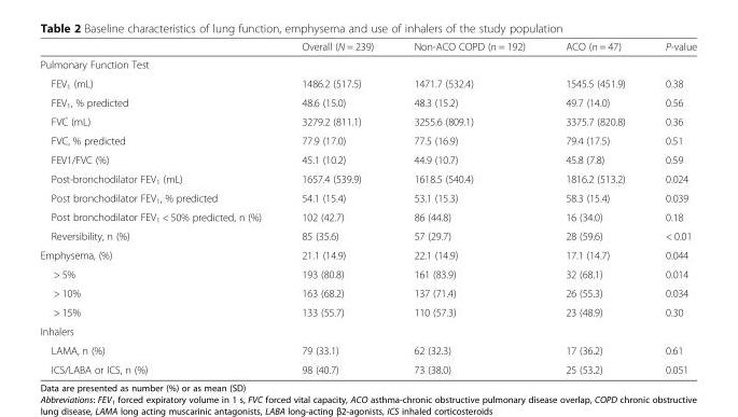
<table><thead><tr><td></td><td>Overall (N = 239)</td><td>Non-ACO COPD (n = 192)</td><td>ACO (n = 47)</td><td>P-value</td></tr></thead><tbody><tr><td colspan="5">Pulmonary Function Test</td></tr><tr><td>FEV<sub>1</sub> (mL)</td><td>1486.2 (517.5)</td><td>1471.7 (532.4)</td><td>1545.5 (451.9)</td><td>0.38</td></tr><tr><td>FEV<sub>1</sub>, % predicted</td><td>48.6 (15.0)</td><td>48.3 (15.2)</td><td>49.7 (14.0)</td><td>0.56</td></tr><tr><td>FVC (mL)</td><td>3279.2 (811.1)</td><td>3255.6 (809.1)</td><td>3375.7 (820.8)</td><td>0.36</td></tr><tr><td>FVC, % predicted</td><td>77.9 (17.0)</td><td>77.5 (16.9)</td><td>79.4 (17.5)</td><td>0.51</td></tr><tr><td>FEV1/FVC (%)</td><td>45.1 (10.2)</td><td>44.9 (10.7)</td><td>45.8 (7.8)</td><td>0.59</td></tr><tr><td>Post-bronchodilator FEV<sub>1</sub> (mL)</td><td>1657.4 (539.9)</td><td>1618.5 (540.4)</td><td>1816.2 (513.2)</td><td>0.024</td></tr><tr><td>Post bronchodilator FEV<sub>1</sub>, % predicted</td><td>54.1 (15.4)</td><td>53.1 (15.3)</td><td>58.3 (15.4)</td><td>0.039</td></tr><tr><td>Post bronchodilator FEV<sub>1</sub> &lt; 50% predicted, n (%)</td><td>102 (42.7)</td><td>86 (44.8)</td><td>16 (34.0)</td><td>0.18</td></tr><tr><td>Reversibility, n (%)</td><td>85 (35.6)</td><td>57 (29.7)</td><td>28 (59.6)</td><td>&lt; 0.01</td></tr><tr><td>Emphysema, (%)</td><td>21.1 (14.9)</td><td>22.1 (14.9)</td><td>17.1 (14.7)</td><td>0.044</td></tr><tr><td>&gt; 5%</td><td>193 (80.8)</td><td>161 (83.9)</td><td>32 (68.1)</td><td>0.014</td></tr><tr><td>&gt; 10%</td><td>163 (68.2)</td><td>137 (71.4)</td><td>26 (55.3)</td><td>0.034</td></tr><tr><td>&gt; 15%</td><td>133 (55.7)</td><td>110 (57.3)</td><td>23 (48.9)</td><td>0.30</td></tr><tr><td colspan="5">Inhalers</td></tr><tr><td>LAMA, n (%)</td><td>79 (33.1)</td><td>62 (32.3)</td><td>17 (36.2)</td><td>0.61</td></tr><tr><td>ICS/LABA or ICS, n (%)</td><td>98 (40.7)</td><td>73 (38.0)</td><td>25 (53.2)</td><td>0.051</td></tr></tbody></table>